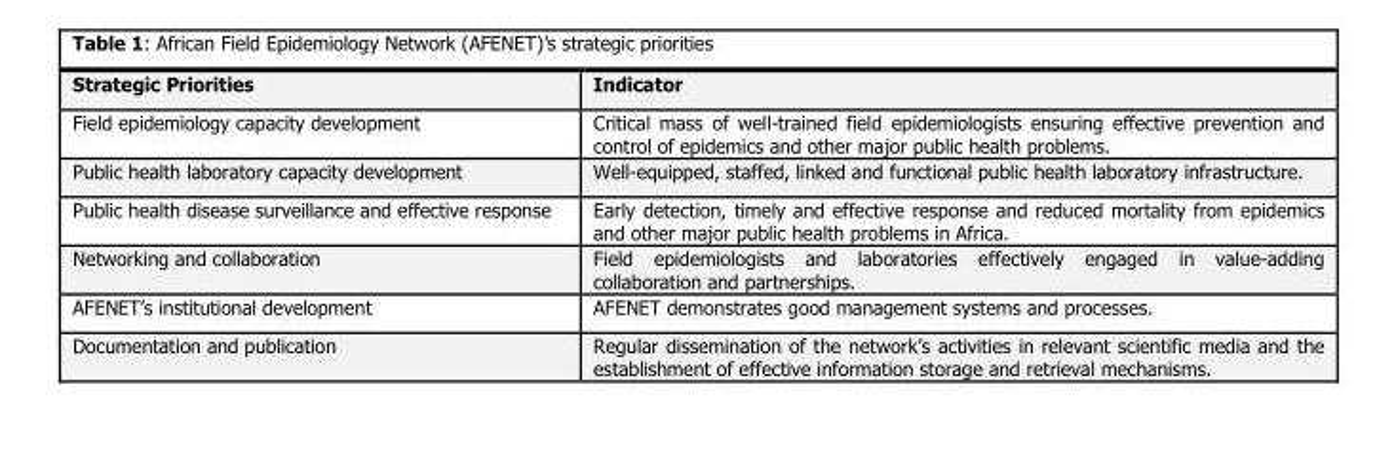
<table><thead><tr><td>Strategic Priorities</td><td>Indicator</td></tr></thead><tbody><tr><td>Field epidemiology capacity development</td><td>Critical mass of well-trained field epidemiologists ensuring effective prevention and control of epidemics and other major public health problems.</td></tr><tr><td>Public health laboratory capacity development</td><td>Well-equipped, staffed, linked and functional public health laboratory infrastructure.</td></tr><tr><td>Public health disease surveillance and effective response</td><td>Early detection, timely and effective response and reduced mortality from epidemics and other major public health problems in Africa.</td></tr><tr><td>Networking and collaboration</td><td>Field epidemiologists and laboratories effectively engaged in value-adding collaboration and partnerships.</td></tr><tr><td>AFENET’s institutional development</td><td>AFENET demonstrates good management systems and processes.</td></tr><tr><td>Documentation and publication</td><td>Regular dissemination of the network’s activities in relevant scientific media and the establishment of effective information storage and retrieval mechanisms.</td></tr></tbody></table>